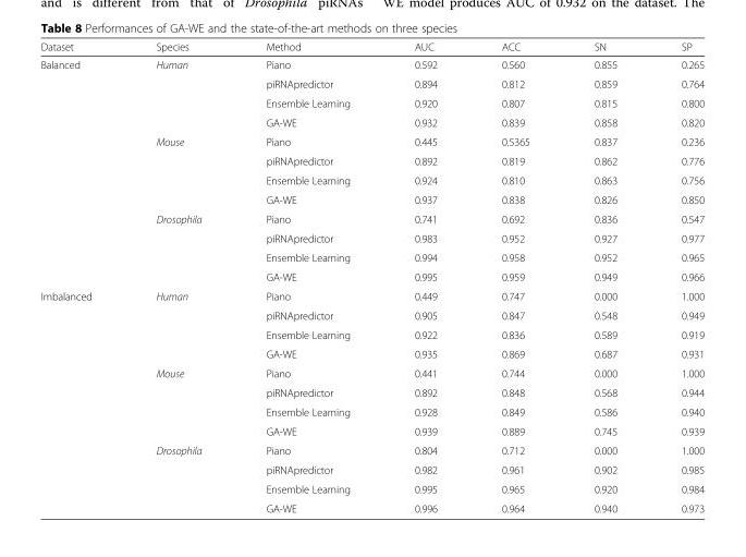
<table><thead><tr><td>Dataset</td><td>Species</td><td>Method</td><td>AUC</td><td>ACC</td><td>SN</td><td>SP</td></tr></thead><tbody><tr><td rowspan="12">Balanced</td><td rowspan="4">Human</td><td>Piano</td><td>0.592</td><td>0.560</td><td>0.855</td><td>0.265</td></tr><tr><td>piRNApredictor</td><td>0.894</td><td>0.812</td><td>0.859</td><td>0.764</td></tr><tr><td>Ensemble Learning</td><td>0.920</td><td>0.807</td><td>0.815</td><td>0.800</td></tr><tr><td>GA-WE</td><td>0.932</td><td>0.839</td><td>0.858</td><td>0.820</td></tr><tr><td rowspan="4">Mouse</td><td>Piano</td><td>0.445</td><td>0.5365</td><td>0.837</td><td>0.236</td></tr><tr><td>piRNApredictor</td><td>0.892</td><td>0.819</td><td>0.862</td><td>0.776</td></tr><tr><td>Ensemble Learning</td><td>0.924</td><td>0.810</td><td>0.863</td><td>0.756</td></tr><tr><td>GA-WE</td><td>0.937</td><td>0.838</td><td>0.826</td><td>0.850</td></tr><tr><td rowspan="4">Drosophila</td><td>Piano</td><td>0.741</td><td>0.692</td><td>0.836</td><td>0.547</td></tr><tr><td>piRNApredictor</td><td>0.983</td><td>0.952</td><td>0.927</td><td>0.977</td></tr><tr><td>Ensemble Learning</td><td>0.994</td><td>0.958</td><td>0.952</td><td>0.965</td></tr><tr><td>GA-WE</td><td>0.995</td><td>0.959</td><td>0.949</td><td>0.966</td></tr><tr><td rowspan="12">Imbalanced</td><td rowspan="4">Human</td><td>Piano</td><td>0.449</td><td>0.747</td><td>0.000</td><td>1.000</td></tr><tr><td>piRNApredictor</td><td>0.905</td><td>0.847</td><td>0.548</td><td>0.949</td></tr><tr><td>Ensemble Learning</td><td>0.922</td><td>0.836</td><td>0.589</td><td>0.919</td></tr><tr><td>GA-WE</td><td>0.935</td><td>0.869</td><td>0.687</td><td>0.931</td></tr><tr><td rowspan="4">Mouse</td><td>Piano</td><td>0.441</td><td>0.744</td><td>0.000</td><td>1.000</td></tr><tr><td>piRNApredictor</td><td>0.892</td><td>0.848</td><td>0.568</td><td>0.944</td></tr><tr><td>Ensemble Learning</td><td>0.928</td><td>0.849</td><td>0.586</td><td>0.940</td></tr><tr><td>GA-WE</td><td>0.939</td><td>0.889</td><td>0.745</td><td>0.939</td></tr><tr><td rowspan="4">Drosophila</td><td>Piano</td><td>0.804</td><td>0.712</td><td>0.000</td><td>1.000</td></tr><tr><td>piRNApredictor</td><td>0.982</td><td>0.961</td><td>0.902</td><td>0.985</td></tr><tr><td>Ensemble Learning</td><td>0.995</td><td>0.965</td><td>0.920</td><td>0.984</td></tr><tr><td>GA-WE</td><td>0.996</td><td>0.964</td><td>0.940</td><td>0.973</td></tr></tbody></table>